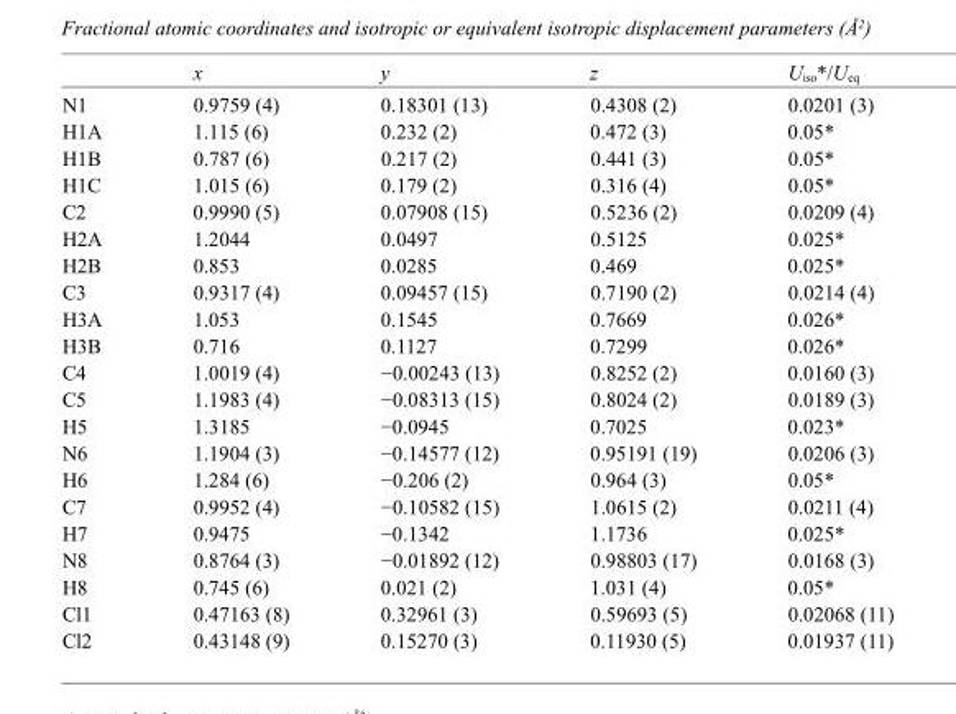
<table><thead><tr><td></td><td>x</td><td>y</td><td>z</td><td>U<sub>iso</sub>*/U<sub>eq</sub></td></tr></thead><tbody><tr><td>N1</td><td>0.9759 (4)</td><td>0.18301 (13)</td><td>0.4308 (2)</td><td>0.0201 (3)</td></tr><tr><td>H1A</td><td>1.115 (6)</td><td>0.232 (2)</td><td>0.472 (3)</td><td>0.05*</td></tr><tr><td>H1B</td><td>0.787 (6)</td><td>0.217 (2)</td><td>0.441 (3)</td><td>0.05*</td></tr><tr><td>H1C</td><td>1.015 (6)</td><td>0.179 (2)</td><td>0.316 (4)</td><td>0.05*</td></tr><tr><td>C2</td><td>0.9990 (5)</td><td>0.07908 (15)</td><td>0.5236 (2)</td><td>0.0209 (4)</td></tr><tr><td>H2A</td><td>1.2044</td><td>0.0497</td><td>0.5125</td><td>0.025*</td></tr><tr><td>H2B</td><td>0.853</td><td>0.0285</td><td>0.469</td><td>0.025*</td></tr><tr><td>C3</td><td>0.9317 (4)</td><td>0.09457 (15)</td><td>0.7190 (2)</td><td>0.0214 (4)</td></tr><tr><td>H3A</td><td>1.053</td><td>0.1545</td><td>0.7669</td><td>0.026*</td></tr><tr><td>H3B</td><td>0.716</td><td>0.1127</td><td>0.7299</td><td>0.026*</td></tr><tr><td>C4</td><td>1.0019 (4)</td><td>−0.00243 (13)</td><td>0.8252 (2)</td><td>0.0160 (3)</td></tr><tr><td>C5</td><td>1.1983 (4)</td><td>−0.08313 (15)</td><td>0.8024 (2)</td><td>0.0189 (3)</td></tr><tr><td>H5</td><td>1.3185</td><td>−0.0945</td><td>0.7025</td><td>0.023*</td></tr><tr><td>N6</td><td>1.1904 (3)</td><td>−0.14577 (12)</td><td>0.95191 (19)</td><td>0.0206 (3)</td></tr><tr><td>H6</td><td>1.284 (6)</td><td>−0.206 (2)</td><td>0.964 (3)</td><td>0.05*</td></tr><tr><td>C7</td><td>0.9952 (4)</td><td>−0.10582 (15)</td><td>1.0615 (2)</td><td>0.0211 (4)</td></tr><tr><td>H7</td><td>0.9475</td><td>−0.1342</td><td>1.1736</td><td>0.025*</td></tr><tr><td>N8</td><td>0.8764 (3)</td><td>−0.01892 (12)</td><td>0.98803 (17)</td><td>0.0168 (3)</td></tr><tr><td>H8</td><td>0.745 (6)</td><td>0.021 (2)</td><td>1.031 (4)</td><td>0.05*</td></tr><tr><td>Cl1</td><td>0.47163 (8)</td><td>0.32961 (3)</td><td>0.59693 (5)</td><td>0.02068 (11)</td></tr><tr><td>Cl2</td><td>0.43148 (9)</td><td>0.15270 (3)</td><td>0.11930 (5)</td><td>0.01937 (11)</td></tr></tbody></table>